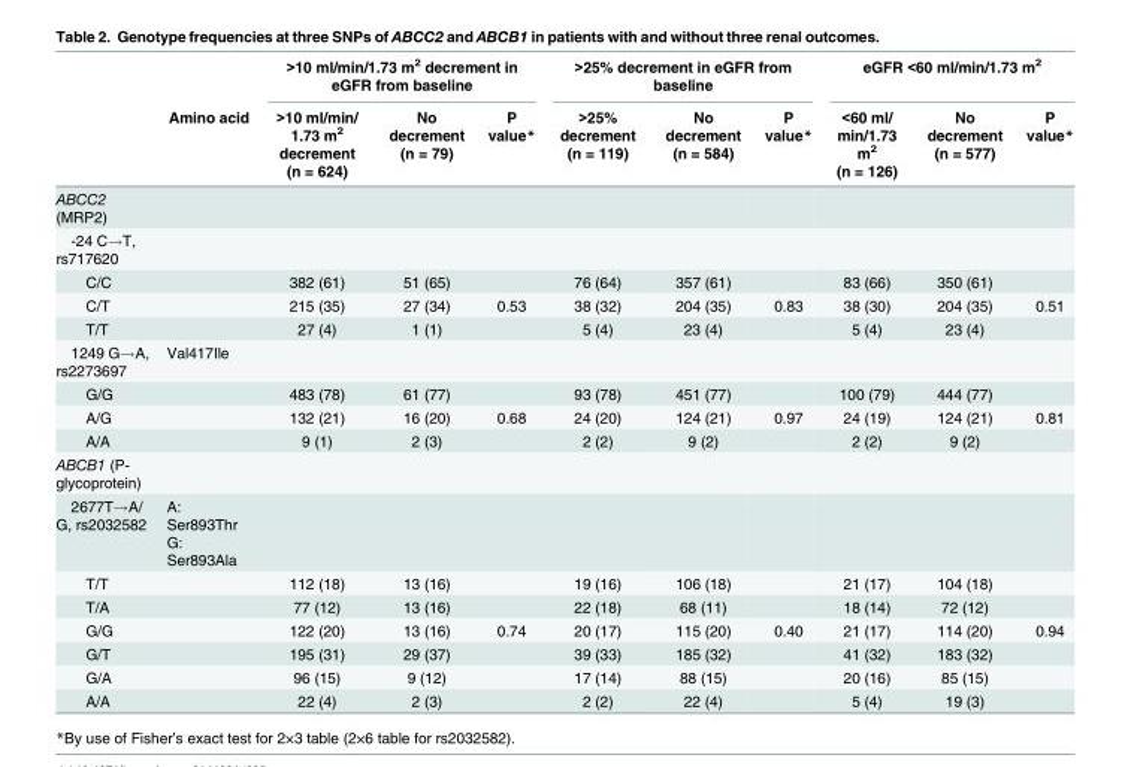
<table><thead><tr><td rowspan="2"></td><td rowspan="2">Amino acid</td><td colspan="3">&gt;10 ml/min/1.73 m<sup>2</sup> decrement in eGFR from baseline</td><td colspan="3">&gt;25% decrement in eGFR from baseline</td><td colspan="3">eGFR &lt;60 ml/min/1.73 m<sup>2</sup></td></tr><tr><td>&gt;10 ml/min/ 1.73 m<sup>2</sup> decrement (n = 624)</td><td>No decrement (n = 79)</td><td>P value*</td><td>&gt;25% decrement (n = 119)</td><td>No decrement (n = 584)</td><td>P value*</td><td>&lt;60 ml/ min/1.73 m<sup>2</sup> (n = 126)</td><td>No decrement (n = 577)</td><td>P value*</td></tr></thead><tbody><tr><td colspan="11">ABCC2 (MRP2)</td></tr><tr><td colspan="11">-24 C→T, rs717620</td></tr><tr><td>C/C</td><td></td><td>382 (61)</td><td>51 (65)</td><td></td><td>76 (64)</td><td>357 (61)</td><td></td><td>83 (66)</td><td>350 (61)</td><td></td></tr><tr><td>C/T</td><td></td><td>215 (35)</td><td>27 (34)</td><td>0.53</td><td>38 (32)</td><td>204 (35)</td><td>0.83</td><td>38 (30)</td><td>204 (35)</td><td>0.51</td></tr><tr><td>T/T</td><td></td><td>27 (4)</td><td>1 (1)</td><td></td><td>5 (4)</td><td>23 (4)</td><td></td><td>5 (4)</td><td>23 (4)</td><td></td></tr><tr><td>1249 G→A, rs2273697</td><td>Val417Ile</td><td></td><td></td><td></td><td></td><td></td><td></td><td></td><td></td><td></td></tr><tr><td>G/G</td><td></td><td>483 (78)</td><td>61 (77)</td><td></td><td>93 (78)</td><td>451 (77)</td><td></td><td>100 (79)</td><td>444 (77)</td><td></td></tr><tr><td>A/G</td><td></td><td>132 (21)</td><td>16 (20)</td><td>0.68</td><td>24 (20)</td><td>124 (21)</td><td>0.97</td><td>24 (19)</td><td>124 (21)</td><td>0.81</td></tr><tr><td>A/A</td><td></td><td>9 (1)</td><td>2 (3)</td><td></td><td>2 (2)</td><td>9 (2)</td><td></td><td>2 (2)</td><td>9 (2)</td><td></td></tr><tr><td colspan="11">ABCB1 (P- glycoprotein)</td></tr><tr><td>2677T→A/ G, rs2032582</td><td>A: Ser893Thr G: Ser893Ala</td><td></td><td></td><td></td><td></td><td></td><td></td><td></td><td></td><td></td></tr><tr><td>T/T</td><td></td><td>112 (18)</td><td>13 (16)</td><td></td><td>19 (16)</td><td>106 (18)</td><td></td><td>21 (17)</td><td>104 (18)</td><td></td></tr><tr><td>T/A</td><td></td><td>77 (12)</td><td>13 (16)</td><td></td><td>22 (18)</td><td>68 (11)</td><td></td><td>18 (14)</td><td>72 (12)</td><td></td></tr><tr><td>G/G</td><td></td><td>122 (20)</td><td>13 (16)</td><td>0.74</td><td>20 (17)</td><td>115 (20)</td><td>0.40</td><td>21 (17)</td><td>114 (20)</td><td>0.94</td></tr><tr><td>G/T</td><td></td><td>195 (31)</td><td>29 (37)</td><td></td><td>39 (33)</td><td>185 (32)</td><td></td><td>41 (32)</td><td>183 (32)</td><td></td></tr><tr><td>G/A</td><td></td><td>96 (15)</td><td>9 (12)</td><td></td><td>17 (14)</td><td>88 (15)</td><td></td><td>20 (16)</td><td>85 (15)</td><td></td></tr><tr><td>A/A</td><td></td><td>22 (4)</td><td>2 (3)</td><td></td><td>2 (2)</td><td>22 (4)</td><td></td><td>5 (4)</td><td>19 (3)</td><td></td></tr></tbody></table>